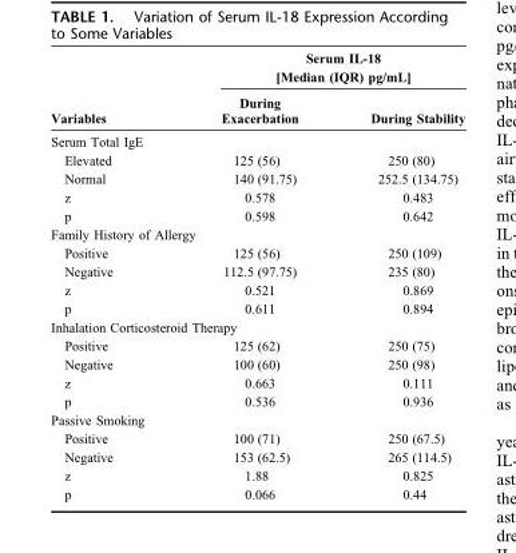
<table><thead><tr><td rowspan="2">Variables</td><td colspan="2">Serum IL-18 [Median (IQR) pg/mL]</td></tr><tr><td>During Exacerbation</td><td>During Stability</td></tr></thead><tbody><tr><td colspan="3">Serum Total IgE</td></tr><tr><td>Elevated</td><td>125 (56)</td><td>250 (80)</td></tr><tr><td>Normal</td><td>140 (91.75)</td><td>252.5 (134.75)</td></tr><tr><td>z</td><td>0.578</td><td>0.483</td></tr><tr><td>p</td><td>0.598</td><td>0.642</td></tr><tr><td colspan="3">Family History of Allergy</td></tr><tr><td>Positive</td><td>125 (56)</td><td>250 (109)</td></tr><tr><td>Negative</td><td>112.5 (97.75)</td><td>235 (80)</td></tr><tr><td>z</td><td>0.521</td><td>0.869</td></tr><tr><td>p</td><td>0.611</td><td>0.894</td></tr><tr><td colspan="3">Inhalation Corticosteroid Therapy</td></tr><tr><td>Positive</td><td>125 (62)</td><td>250 (75)</td></tr><tr><td>Negative</td><td>100 (60)</td><td>250 (98)</td></tr><tr><td>z</td><td>0.663</td><td>0.111</td></tr><tr><td>p</td><td>0.536</td><td>0.936</td></tr><tr><td colspan="3">Passive Smoking</td></tr><tr><td>Positive</td><td>100 (71)</td><td>250 (67.5)</td></tr><tr><td>Negative</td><td>153 (62.5)</td><td>265 (114.5)</td></tr><tr><td>z</td><td>1.88</td><td>0.825</td></tr><tr><td>p</td><td>0.066</td><td>0.44</td></tr></tbody></table>